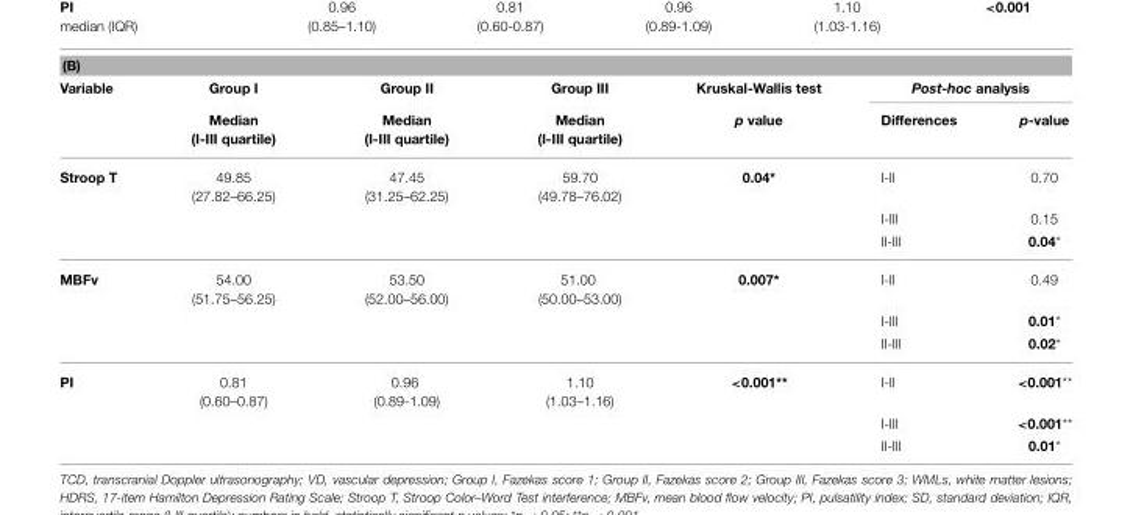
<table><thead><tr><td colspan="7">(B)</td></tr><tr><td rowspan="2">Variable</td><td rowspan="2">Group I Median (I-III quartile)</td><td rowspan="2">Group II Median (I-III quartile)</td><td rowspan="2">Group III Median (I-III quartile)</td><td rowspan="2">Kruskal-Wallis test p value</td><td colspan="2">Post-hoc analysis</td></tr><tr><td>Differences</td><td>p-value</td></tr></thead><tbody><tr><td rowspan="3">Stroop T</td><td>49.85 (27.82–66.25)</td><td>47.45 (31.25–62.25)</td><td>59.70 (49.78–76.02)</td><td>0.04*</td><td>I-II</td><td>0.70</td></tr><tr><td></td><td></td><td></td><td></td><td>I-III</td><td>0.15</td></tr><tr><td></td><td></td><td></td><td></td><td>II-III</td><td>0.04*</td></tr><tr><td rowspan="3">MBFv</td><td>54.00 (51.75–56.25)</td><td>53.50 (52.00–56.00)</td><td>51.00 (50.00–53.00)</td><td>0.007*</td><td>I-II</td><td>0.49</td></tr><tr><td></td><td></td><td></td><td></td><td>I-III</td><td>0.01*</td></tr><tr><td></td><td></td><td></td><td></td><td>II-III</td><td>0.02*</td></tr><tr><td rowspan="3">PI</td><td>0.81 (0.60–0.87)</td><td>0.96 (0.89-1.09)</td><td>1.10 (1.03–1.16)</td><td>&lt;0.001**</td><td>I-II</td><td>&lt;0.001**</td></tr><tr><td></td><td></td><td></td><td></td><td>I-III</td><td>&lt;0.001**</td></tr><tr><td></td><td></td><td></td><td></td><td>II-III</td><td>0.01*</td></tr></tbody></table>